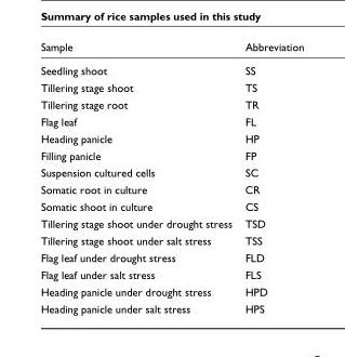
<table><thead><tr><td>Sample</td><td>Abbreviation</td></tr></thead><tbody><tr><td>Seedling shoot</td><td>SS</td></tr><tr><td>Tillering stage shoot</td><td>TS</td></tr><tr><td>Tillering stage root</td><td>TR</td></tr><tr><td>Flag leaf</td><td>FL</td></tr><tr><td>Heading panicle</td><td>HP</td></tr><tr><td>Filling panicle</td><td>FP</td></tr><tr><td>Suspension cultured cells</td><td>SC</td></tr><tr><td>Somatic root in culture</td><td>CR</td></tr><tr><td>Somatic shoot in culture</td><td>CS</td></tr><tr><td>Tillering stage shoot under drought stress</td><td>TSD</td></tr><tr><td>Tillering stage shoot under salt stress</td><td>TSS</td></tr><tr><td>Flag leaf under drought stress</td><td>FLD</td></tr><tr><td>Flag leaf under salt stress</td><td>FLS</td></tr><tr><td>Heading panicle under drought stress</td><td>HPD</td></tr><tr><td>Heading panicle under salt stress</td><td>HPS</td></tr></tbody></table>